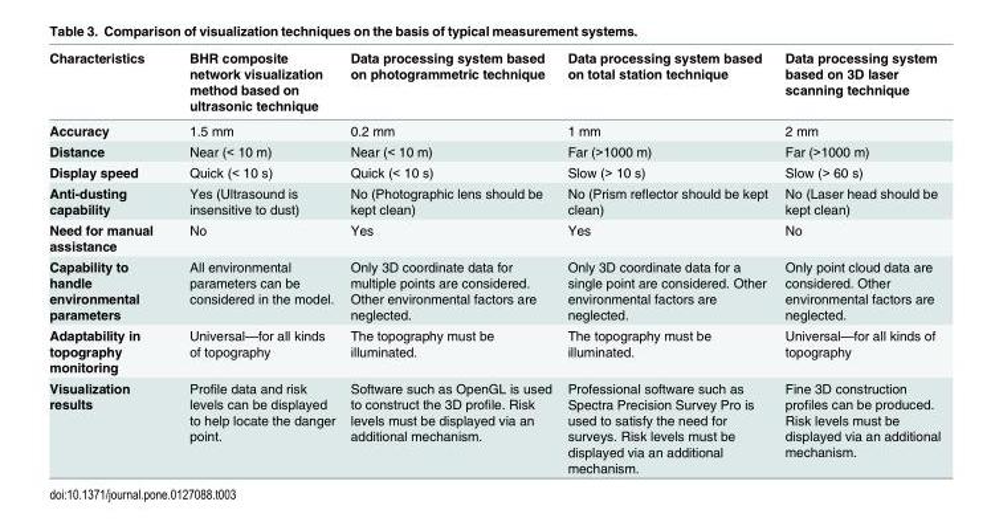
<table><thead><tr><td>Characteristics</td><td>BHR composite network visualization method based on ultrasonic technique</td><td>Data processing system based on photogrammetric technique</td><td>Data processing system based on total station technique</td><td>Data processing system based on 3D laser scanning technique</td></tr></thead><tbody><tr><td>Accuracy</td><td>1.5 mm</td><td>0.2 mm</td><td>1 mm</td><td>2 mm</td></tr><tr><td>Distance</td><td>Near (&lt; 10 m)</td><td>Near (&lt; 10 m)</td><td>Far (&gt;1000 m)</td><td>Far (&gt;1000 m)</td></tr><tr><td>Display speed</td><td>Quick (&lt; 10 s)</td><td>Quick (&lt; 10 s)</td><td>Slow (&gt; 10 s)</td><td>Slow (&gt; 60 s)</td></tr><tr><td>Anti-dusting capability</td><td>Yes (Ultrasound is insensitive to dust)</td><td>No (Photographic lens should be kept clean)</td><td>No (Prism reflector should be kept clean)</td><td>No (Laser head should be kept clean)</td></tr><tr><td>Need for manual assistance</td><td>No</td><td>Yes</td><td>Yes</td><td>No</td></tr><tr><td>Capability to handle environmental parameters</td><td>All environmental parameters can be considered in the model.</td><td>Only 3D coordinate data for multiple points are considered. Other environmental factors are neglected.</td><td>Only 3D coordinate data for a single point are considered. Other environmental factors are neglected.</td><td>Only point cloud data are considered. Other environmental factors are neglected.</td></tr><tr><td>Adaptability in topography monitoring</td><td>Universal—for all kinds of topography</td><td>The topography must be illuminated.</td><td>The topography must be illuminated.</td><td>Universal—for all kinds of topography</td></tr><tr><td>Visualization results</td><td>Profile data and risk levels can be displayed to help locate the danger point.</td><td>Software such as OpenGL is used to construct the 3D profile. Risk levels must be displayed via an additional mechanism.</td><td>Professional software such as Spectra Precision Survey Pro is used to satisfy the need for surveys. Risk levels must be displayed via an additional mechanism.</td><td>Fine 3D construction profiles can be produced. Risk levels must be displayed via an additional mechanism.</td></tr></tbody></table>